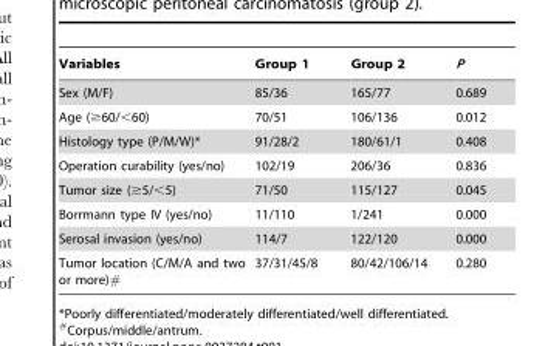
<table><thead><tr><td>Variables</td><td>Group 1</td><td>Group 2</td><td>P</td></tr></thead><tbody><tr><td>Sex (M/F)</td><td>85/36</td><td>165/77</td><td>0.689</td></tr><tr><td>Age (≥60/&lt;60)</td><td>70/51</td><td>106/136</td><td>0.012</td></tr><tr><td>Histology type (P/M/W)*</td><td>91/28/2</td><td>180/61/1</td><td>0.408</td></tr><tr><td>Operation curability (yes/no)</td><td>102/19</td><td>206/36</td><td>0.836</td></tr><tr><td>Tumor size (≥5/&lt;5)</td><td>71/50</td><td>115/127</td><td>0.045</td></tr><tr><td>Borrmann type IV (yes/no)</td><td>11/110</td><td>1/241</td><td>0.000</td></tr><tr><td>Serosal invasion (yes/no)</td><td>114/7</td><td>122/120</td><td>0.000</td></tr><tr><td>Tumor location (C/M/A and two or more)#</td><td>37/31/45/8</td><td>80/42/106/14</td><td>0.280</td></tr></tbody></table>